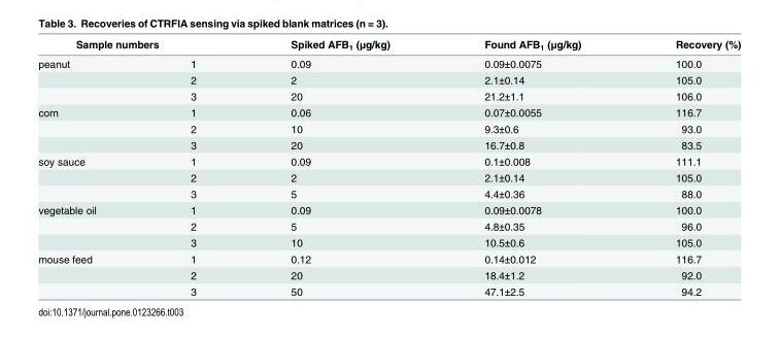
<table><thead><tr><td colspan="2">Sample numbers</td><td rowspan="2">Spiked AFB<sub>1</sub> (μg/kg) 0.09</td><td rowspan="2">Found AFB<sub>1</sub> (μg/kg) 0.09±0.0075</td><td rowspan="2">Recovery (%) 100.0</td></tr><tr><td>peanut</td><td>1</td></tr></thead><tbody><tr><td></td><td>2</td><td>2</td><td>2.1±0.14</td><td>105.0</td></tr><tr><td></td><td>3</td><td>20</td><td>21.2±1.1</td><td>106.0</td></tr><tr><td rowspan="3">corn</td><td>1</td><td>0.06</td><td>0.07±0.0055</td><td>116.7</td></tr><tr><td>2</td><td>10</td><td>9.3±0.6</td><td>93.0</td></tr><tr><td>3</td><td>20</td><td>16.7±0.8</td><td>83.5</td></tr><tr><td rowspan="3">soy sauce</td><td>1</td><td>0.09</td><td>0.1±0.008</td><td>111.1</td></tr><tr><td>2</td><td>2</td><td>2.1±0.14</td><td>105.0</td></tr><tr><td>3</td><td>5</td><td>4.4±0.36</td><td>88.0</td></tr><tr><td rowspan="3">vegetable oil</td><td>1</td><td>0.09</td><td>0.09±0.0078</td><td>100.0</td></tr><tr><td>2</td><td>5</td><td>4.8±0.35</td><td>96.0</td></tr><tr><td>3</td><td>10</td><td>10.5±0.6</td><td>105.0</td></tr><tr><td rowspan="3">mouse feed</td><td>1</td><td>0.12</td><td>0.14±0.012</td><td>116.7</td></tr><tr><td>2</td><td>20</td><td>18.4±1.2</td><td>92.0</td></tr><tr><td>3</td><td>50</td><td>47.1±2.5</td><td>94.2</td></tr></tbody></table>